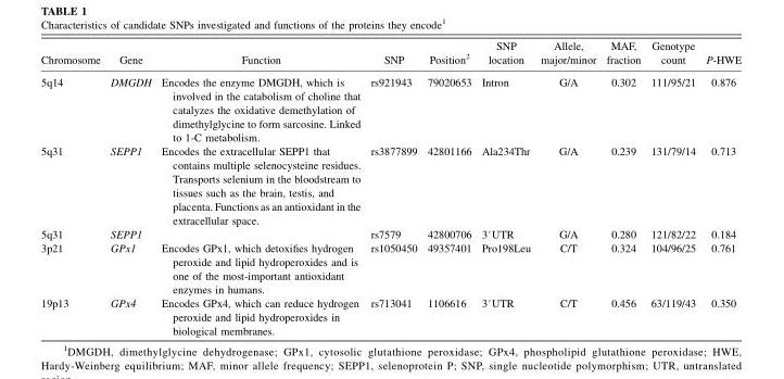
<table><thead><tr><td>Chromosome</td><td>Gene</td><td>Function</td><td>SNP</td><td>Position<sup>2</sup></td><td>SNP location</td><td>Allele, major/minor</td><td>MAF, fraction</td><td>Genotype count</td><td>P-HWE</td></tr></thead><tbody><tr><td>5q14</td><td>DMGDH</td><td>Encodes the enzyme DMGDH, which is involved in the catabolism of choline that catalyzes the oxidative demethylation of dimethylglycine to form sarcosine. Linked to 1-C metabolism.</td><td>rs921943</td><td>79020653</td><td>Intron</td><td>G/A</td><td>0.302</td><td>111/95/21</td><td>0.876</td></tr><tr><td>5q31</td><td>SEPP1</td><td>Encodes the extracellular SEPP1 that contains multiple selenocysteine residues. Transports selenium in the bloodstream to tissues such as the brain, testis, and placenta. Functions as an antioxidant in the extracellular space.</td><td>rs3877899</td><td>42801166</td><td>Ala234Thr</td><td>G/A</td><td>0.239</td><td>131/79/14</td><td>0.713</td></tr><tr><td>5q31</td><td>SEPP1</td><td></td><td>rs7579</td><td>42800706</td><td>3#UTR</td><td>G/A</td><td>0.280</td><td>121/82/22</td><td>0.184</td></tr><tr><td>3p21</td><td>GPx1</td><td>Encodes GPx1, which detoxifies hydrogen peroxide and lipid hydroperoxides and is one of the most-important antioxidant enzymes in humans.</td><td>rs1050450</td><td>49357401</td><td>Pro198Leu</td><td>C/T</td><td>0.324</td><td>104/96/25</td><td>0.761</td></tr><tr><td>19p13</td><td>GPx4</td><td>Encodes GPx4, which can reduce hydrogen peroxide and lipid hydroperoxides in biological membranes.</td><td>rs713041</td><td>1106616</td><td>3#UTR</td><td>C/T</td><td>0.456</td><td>63/119/43</td><td>0.350</td></tr></tbody></table>